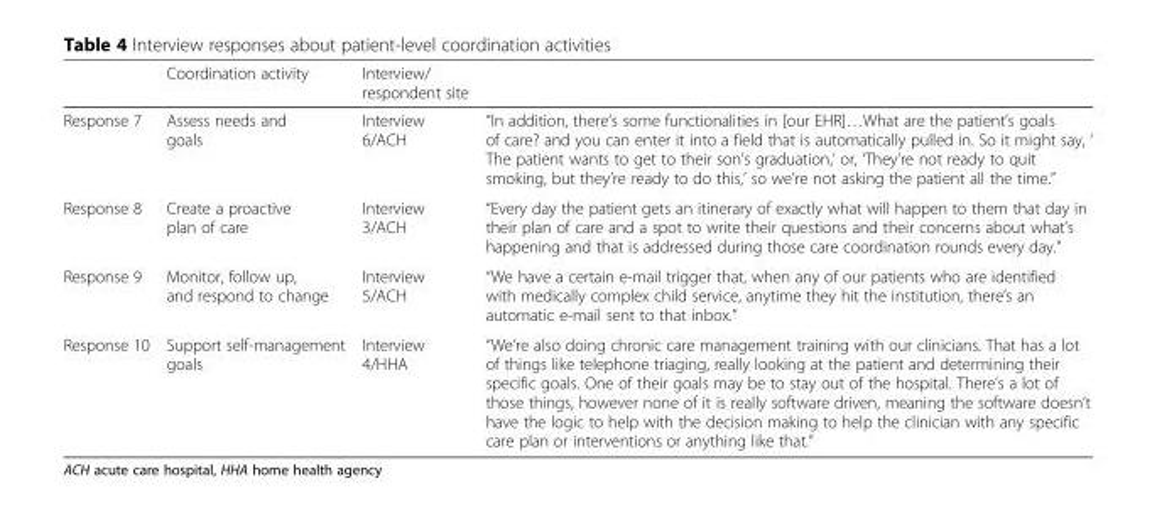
<table><thead><tr><td></td><td>Coordination activity</td><td>Interview/ respondent site</td><td></td></tr></thead><tbody><tr><td>Response 7</td><td>Assess needs and goals</td><td>Interview 6/ACH</td><td>“In addition, there’s some functionalities in [our EHR]…What are the patient’s goals of care? and you can enter it into a field that is automatically pulled in. So it might say, ‘ The patient wants to get to their son’s graduation,’ or, ‘They’re not ready to quit smoking, but they’re ready to do this,’ so we’re not asking the patient all the time.”</td></tr><tr><td>Response 8</td><td>Create a proactive plan of care</td><td>Interview 3/ACH</td><td>“Every day the patient gets an itinerary of exactly what will happen to them that day in their plan of care and a spot to write their questions and their concerns about what’s happening and that is addressed during those care coordination rounds every day.”</td></tr><tr><td>Response 9</td><td>Monitor, follow up, and respond to change</td><td>Interview 5/ACH</td><td>“We have a certain e-mail trigger that, when any of our patients who are identified with medically complex child service, anytime they hit the institution, there’s an automatic e-mail sent to that inbox.”</td></tr><tr><td>Response 10</td><td>Support self-management goals</td><td>Interview 4/HHA</td><td>“We’re also doing chronic care management training with our clinicians. That has a lot of things like telephone triaging, really looking at the patient and determining their specific goals. One of their goals may be to stay out of the hospital. There’s a lot of those things, however none of it is really software driven, meaning the software doesn’t have the logic to help with the decision making to help the clinician with any specific care plan or interventions or anything like that.”</td></tr></tbody></table>